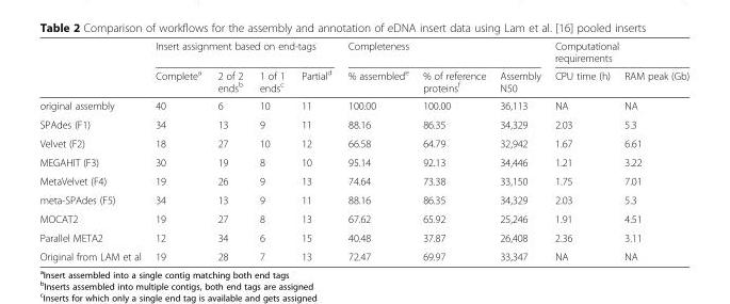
<table><thead><tr><td rowspan="2"></td><td colspan="4">Insert assignment based on end-tags</td><td colspan="3">Completeness</td><td colspan="2">Computational requirements</td></tr><tr><td>Complete<sup>a</sup></td><td>2 of 2 ends<sup>b</sup></td><td>1 of 1 ends<sup>c</sup></td><td>Partial<sup>d</sup></td><td>% assembled<sup>e</sup></td><td>% of reference proteins<sup>f</sup></td><td>Assembly N50</td><td>CPU time (h)</td><td>RAM peak (Gb)</td></tr></thead><tbody><tr><td>original assembly</td><td>40</td><td>6</td><td>10</td><td>11</td><td>100.00</td><td>100.00</td><td>36,113</td><td>NA</td><td>NA</td></tr><tr><td>SPAdes (F1)</td><td>34</td><td>13</td><td>9</td><td>11</td><td>88.16</td><td>86.35</td><td>34,329</td><td>2.03</td><td>5.3</td></tr><tr><td>Velvet (F2)</td><td>18</td><td>27</td><td>10</td><td>12</td><td>66.58</td><td>64.79</td><td>32,942</td><td>1.67</td><td>6.61</td></tr><tr><td>MEGAHIT (F3)</td><td>30</td><td>19</td><td>8</td><td>10</td><td>95.14</td><td>92.13</td><td>34,446</td><td>1.21</td><td>3.22</td></tr><tr><td>MetaVelvet (F4)</td><td>19</td><td>26</td><td>9</td><td>13</td><td>74.64</td><td>73.38</td><td>33,150</td><td>1.75</td><td>7.01</td></tr><tr><td>meta-SPAdes (F5)</td><td>34</td><td>13</td><td>9</td><td>11</td><td>88.16</td><td>86.35</td><td>34,329</td><td>2.03</td><td>5.3</td></tr><tr><td>MOCAT2</td><td>19</td><td>27</td><td>8</td><td>13</td><td>67.62</td><td>65.92</td><td>25,246</td><td>1.91</td><td>4.51</td></tr><tr><td>Parallel META2</td><td>12</td><td>34</td><td>6</td><td>15</td><td>40.48</td><td>37.87</td><td>26,408</td><td>2.36</td><td>3.11</td></tr><tr><td>Original from LAM et al</td><td>19</td><td>28</td><td>7</td><td>13</td><td>72.47</td><td>69.97</td><td>33,347</td><td>NA</td><td>NA</td></tr></tbody></table>